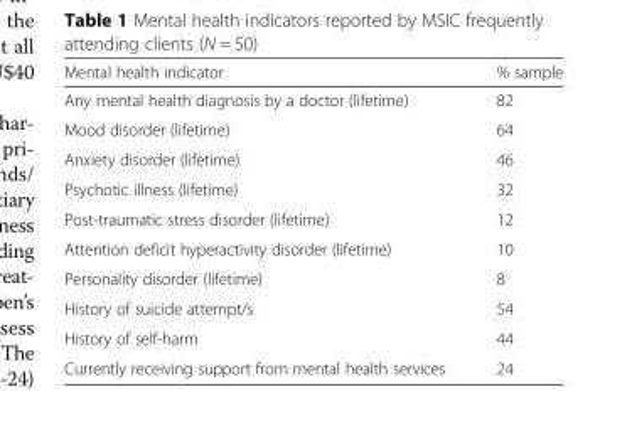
<table><thead><tr><td>Mental health indicator</td><td>% sample</td></tr></thead><tbody><tr><td>Any mental health diagnosis by a doctor (lifetime)</td><td>82</td></tr><tr><td>Mood disorder (lifetime)</td><td>64</td></tr><tr><td>Anxiety disorder (lifetime)</td><td>46</td></tr><tr><td>Psychotic illness (lifetime)</td><td>32</td></tr><tr><td>Post-traumatic stress disorder (lifetime)</td><td>12</td></tr><tr><td>Attention deficit hyperactivity disorder (lifetime)</td><td>10</td></tr><tr><td>Personality disorder (lifetime)</td><td>8</td></tr><tr><td>History of suicide attempt/s</td><td>54</td></tr><tr><td>History of self-harm</td><td>44</td></tr><tr><td>Currently receiving support from mental health services</td><td>24</td></tr></tbody></table>